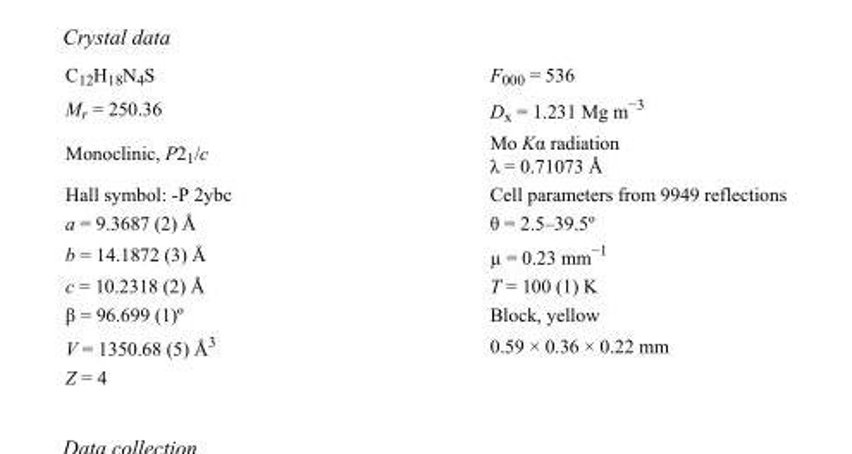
<table><tbody><tr><td>C<sub>12</sub>H<sub>18</sub>N<sub>4</sub>S</td><td>F<sub>000</sub> = 536</td></tr><tr><td>M<sub>r</sub> = 250.36</td><td>D<sub>x</sub> = 1.231 Mg m<sup>−3</sup></td></tr><tr><td>Monoclinic, P2<sub>1</sub>/c</td><td>Mo Kα radiation λ = 0.71073 Å</td></tr><tr><td>Hall symbol: -P 2ybc</td><td>Cell parameters from 9949 reflections</td></tr><tr><td>a = 9.3687 (2) Å</td><td>θ = 2.5–39.5º</td></tr><tr><td>b = 14.1872 (3) Å</td><td>µ = 0.23 mm<sup>−1</sup></td></tr><tr><td>c = 10.2318 (2) Å</td><td>T = 100 (1) K</td></tr><tr><td>β = 96.699 (1)º</td><td>Block, yellow</td></tr><tr><td>V = 1350.68 (5) Å<sup>3</sup></td><td>0.59 × 0.36 × 0.22 mm</td></tr><tr><td>Z = 4</td><td></td></tr></tbody></table>